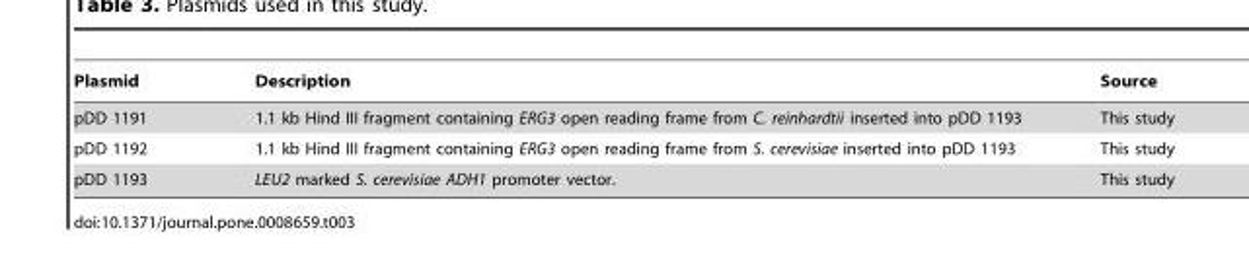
<table><thead><tr><td>Plasmid</td><td>Description</td><td>Source</td></tr></thead><tbody><tr><td>pDD 1191</td><td>1.1 kb Hind III fragment containing ERG3 open reading frame from C. reinhardtii inserted into pDD 1193</td><td>This study</td></tr><tr><td>pDD 1192</td><td>1.1 kb Hind III fragment containing ERG3 open reading frame from S. cerevisiae inserted into pDD 1193</td><td>This study</td></tr><tr><td>pDD 1193</td><td>LEU2 marked S. cerevisiae ADH1 promoter vector.</td><td>This study</td></tr></tbody></table>